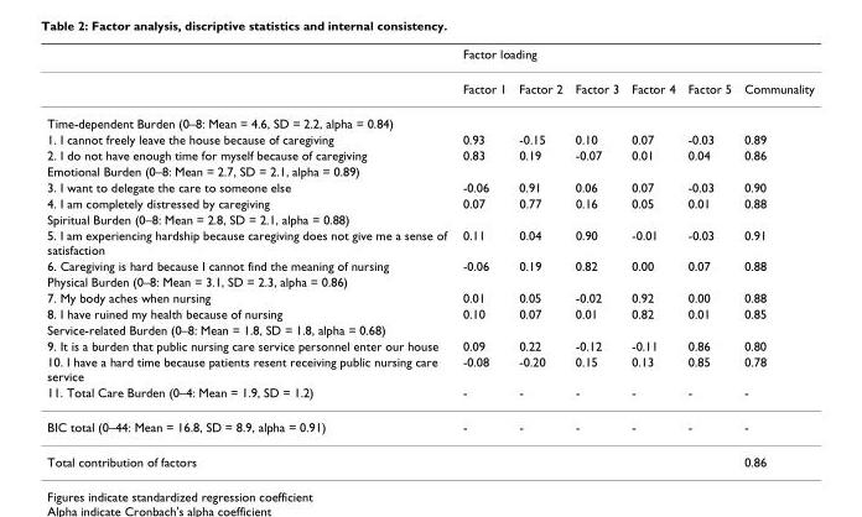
<table><thead><tr><td rowspan="2"></td><td colspan="6">Factor loading</td></tr><tr><td>Factor 1</td><td>Factor 2</td><td>Factor 3</td><td>Factor 4</td><td>Factor 5</td><td>Communality</td></tr></thead><tbody><tr><td colspan="7">Time-dependent Burden (0–8: Mean = 4.6, SD = 2.2, alpha = 0.84)</td></tr><tr><td>1. I cannot freely leave the house because of caregiving</td><td>0.93</td><td>-0.15</td><td>0.10</td><td>0.07</td><td>-0.03</td><td>0.89</td></tr><tr><td>2. I do not have enough time for myself because of caregiving</td><td>0.83</td><td>0.19</td><td>-0.07</td><td>0.01</td><td>0.04</td><td>0.86</td></tr><tr><td colspan="7">Emotional Burden (0–8: Mean = 2.7, SD = 2.1, alpha = 0.89)</td></tr><tr><td>3. I want to delegate the care to someone else</td><td>-0.06</td><td>0.91</td><td>0.06</td><td>0.07</td><td>-0.03</td><td>0.90</td></tr><tr><td>4. I am completely distressed by caregiving</td><td>0.07</td><td>0.77</td><td>0.16</td><td>0.05</td><td>0.01</td><td>0.88</td></tr><tr><td colspan="7">Spiritual Burden (0–8: Mean = 2.8, SD = 2.1, alpha = 0.88)</td></tr><tr><td>5. I am experiencing hardship because caregiving does not give me a sense of satisfaction</td><td>0.11</td><td>0.04</td><td>0.90</td><td>-0.01</td><td>-0.03</td><td>0.91</td></tr><tr><td>6. Caregiving is hard because I cannot find the meaning of nursing</td><td>-0.06</td><td>0.19</td><td>0.82</td><td>0.00</td><td>0.07</td><td>0.88</td></tr><tr><td colspan="7">Physical Burden (0–8: Mean = 3.1, SD = 2.3, alpha = 0.86)</td></tr><tr><td>7. My body aches when nursing</td><td>0.01</td><td>0.05</td><td>-0.02</td><td>0.92</td><td>0.00</td><td>0.88</td></tr><tr><td>8. I have ruined my health because of nursing</td><td>0.10</td><td>0.07</td><td>0.01</td><td>0.82</td><td>0.01</td><td>0.85</td></tr><tr><td colspan="7">Service-related Burden (0–8: Mean = 1.8, SD = 1.8, alpha = 0.68)</td></tr><tr><td>9. It is a burden that public nursing care service personnel enter our house</td><td>0.09</td><td>0.22</td><td>-0.12</td><td>-0.11</td><td>0.86</td><td>0.80</td></tr><tr><td>10. I have a hard time because patients resent receiving public nursing care service</td><td>-0.08</td><td>-0.20</td><td>0.15</td><td>0.13</td><td>0.85</td><td>0.78</td></tr><tr><td>11. Total Care Burden (0–4: Mean = 1.9, SD = 1.2)</td><td>-</td><td>-</td><td>-</td><td>-</td><td>-</td><td>-</td></tr><tr><td>BIC total (0–44: Mean = 16.8, SD = 8.9, alpha = 0.91)</td><td>-</td><td>-</td><td>-</td><td>-</td><td>-</td><td>-</td></tr><tr><td>Total contribution of factors</td><td></td><td></td><td></td><td></td><td></td><td>0.86</td></tr></tbody></table>